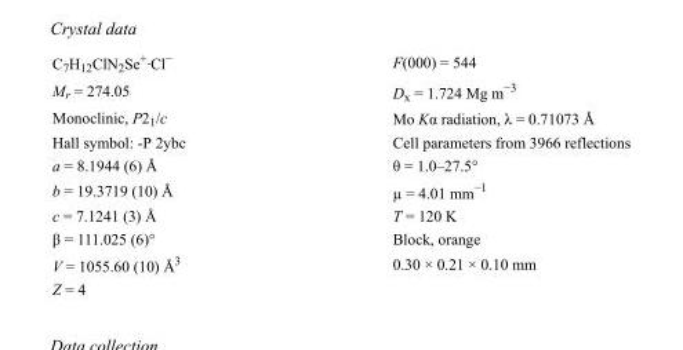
<table><tbody><tr><td>C<sub>7</sub>H<sub>12</sub>ClN<sub>2</sub>Se<sup>+</sup>·Cl<sup>−</sup></td><td>F(000) = 544</td></tr><tr><td>M<sub>r</sub> = 274.05</td><td>D<sub>x</sub> = 1.724 Mg m<sup>−3</sup></td></tr><tr><td>Monoclinic, P2<sub>1</sub>/c</td><td>Mo Kα radiation, λ = 0.71073 Å</td></tr><tr><td>Hall symbol: -P 2ybc</td><td>Cell parameters from 3966 reflections</td></tr><tr><td>a = 8.1944 (6) Å</td><td>θ = 1.0–27.5°</td></tr><tr><td>b = 19.3719 (10) Å</td><td>µ = 4.01 mm<sup>−1</sup></td></tr><tr><td>c = 7.1241 (3) Å</td><td>T = 120 K</td></tr><tr><td>β = 111.025 (6)°</td><td>Block, orange</td></tr><tr><td>V = 1055.60 (10) Å<sup>3</sup></td><td>0.30 × 0.21 × 0.10 mm</td></tr><tr><td>Z = 4</td><td></td></tr></tbody></table>